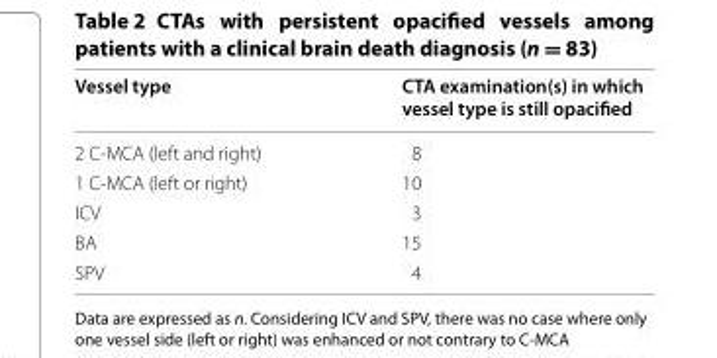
<table><thead><tr><td>Vessel type</td><td>CTA examination(s) in which vessel type is still opacified</td></tr></thead><tbody><tr><td>2 C-MCA (left and right)</td><td>8</td></tr><tr><td>1 C-MCA (left or right)</td><td>10</td></tr><tr><td>ICV</td><td>3</td></tr><tr><td>BA</td><td>15</td></tr><tr><td>SPV</td><td>4</td></tr></tbody></table>